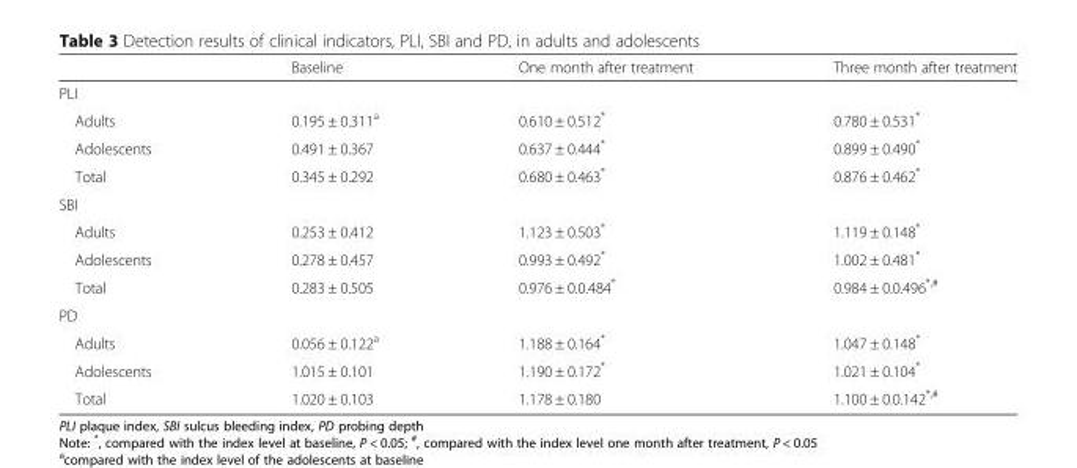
<table><thead><tr><td></td><td>Baseline</td><td>One month after treatment</td><td>Three month after treatment</td></tr></thead><tbody><tr><td colspan="4">PLI</td></tr><tr><td>Adults</td><td>0.195 ± 0.311<sup>a</sup></td><td>0.610 ± 0.512*</td><td>0.780 ± 0.531*</td></tr><tr><td>Adolescents</td><td>0.491 ± 0.367</td><td>0.637 ± 0.444*</td><td>0.899 ± 0.490*</td></tr><tr><td>Total</td><td>0.345 ± 0.292</td><td>0.680 ± 0.463*</td><td>0.876 ± 0.462*</td></tr><tr><td colspan="4">SBI</td></tr><tr><td>Adults</td><td>0.253 ± 0.412</td><td>1.123 ± 0.503*</td><td>1.119 ± 0.148*</td></tr><tr><td>Adolescents</td><td>0.278 ± 0.457</td><td>0.993 ± 0.492*</td><td>1.002 ± 0.481*</td></tr><tr><td>Total</td><td>0.283 ± 0.505</td><td>0.976 ± 0.0.484*</td><td>0.984 ± 0.0.496<sup>*,#</sup></td></tr><tr><td colspan="4">PD</td></tr><tr><td>Adults</td><td>0.056 ± 0.122<sup>a</sup></td><td>1.188 ± 0.164*</td><td>1.047 ± 0.148*</td></tr><tr><td>Adolescents</td><td>1.015 ± 0.101</td><td>1.190 ± 0.172*</td><td>1.021 ± 0.104*</td></tr><tr><td>Total</td><td>1.020 ± 0.103</td><td>1.178 ± 0.180</td><td>1.100 ± 0.0.142<sup>*,#</sup></td></tr></tbody></table>